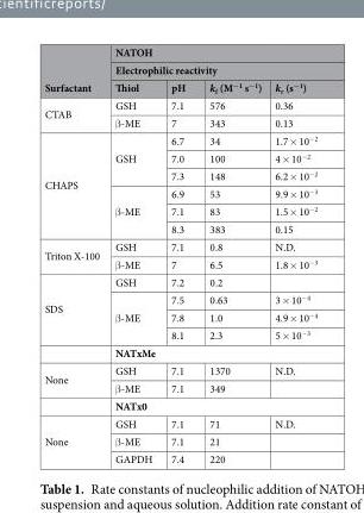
<table><thead><tr><td rowspan="3">Surfactant</td><td rowspan="2" colspan="4">NATOH Electrophilic reactivity</td></tr><tr></tr><tr><td>Thiol</td><td>pH</td><td>k<sub>f</sub> (M<sup>−1</sup> s<sup>−1</sup>)</td><td>k<sub>r</sub> (s<sup>−1</sup>)</td></tr></thead><tbody><tr><td rowspan="2">CTAB</td><td>GSH</td><td>7.1</td><td>576</td><td>0.36</td></tr><tr><td>β-ME</td><td>7</td><td>343</td><td>0.13</td></tr><tr><td rowspan="6">CHAPS</td><td rowspan="3">GSH</td><td>6.7</td><td>34</td><td>1.7 × 10<sup>−2</sup></td></tr><tr><td>7.0</td><td>100</td><td>4 × 10<sup>−2</sup></td></tr><tr><td>7.3</td><td>148</td><td>6.2 × 10<sup>−2</sup></td></tr><tr><td rowspan="3">β-ME</td><td>6.9</td><td>53</td><td>9.9 × 10<sup>−3</sup></td></tr><tr><td>7.1</td><td>83</td><td>1.5 × 10<sup>−2</sup></td></tr><tr><td>8.3</td><td>383</td><td>0.15</td></tr><tr><td rowspan="2">Triton X-100</td><td>GSH</td><td>7.1</td><td>0.8</td><td>N.D.</td></tr><tr><td>β-ME</td><td>7</td><td>6.5</td><td>1.8 × 10<sup>−3</sup></td></tr><tr><td rowspan="5">SDS</td><td>GSH</td><td>7.2</td><td>0.2</td><td></td></tr><tr><td rowspan="3">β-ME</td><td>7.5</td><td>0.63</td><td>3 × 10<sup>−4</sup></td></tr><tr><td>7.8</td><td>1.0</td><td>4.9 × 10<sup>−4</sup></td></tr><tr><td>8.1</td><td>2.3</td><td>5 × 10<sup>−3</sup></td></tr><tr><td colspan="4">NATxMe</td></tr><tr><td rowspan="3">None</td><td>GSH</td><td>7.1</td><td>1370</td><td>N.D.</td></tr><tr><td>β-ME</td><td>7.1</td><td>349</td><td></td></tr><tr><td colspan="4">NATx0</td></tr><tr><td rowspan="3">None</td><td>GSH</td><td>7.1</td><td>71</td><td>N.D.</td></tr><tr><td>β-ME</td><td>7.1</td><td>21</td><td></td></tr><tr><td>GAPDH</td><td>7.4</td><td>220</td><td></td></tr></tbody></table>